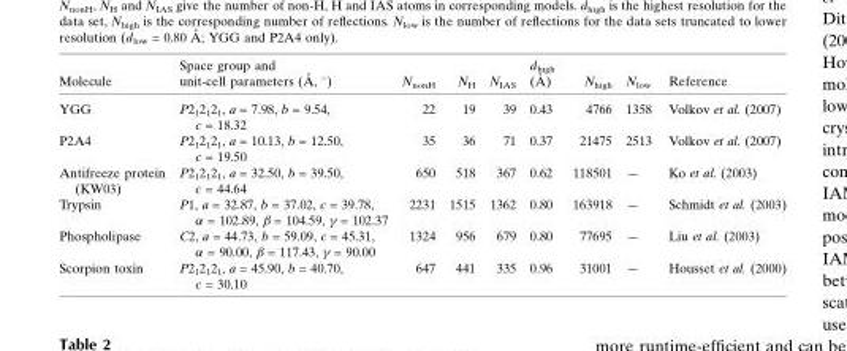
<table><thead><tr><td>Molecule</td><td>Space group and unit-cell parameters (A˚ , �)</td><td>N<sub>nonH</sub></td><td>N<sub>H</sub></td><td>N<sub>IAS</sub></td><td>dhigh (A˚ )</td><td>N<sub>high</sub></td><td>N<sub>low</sub></td><td>Reference</td></tr></thead><tbody><tr><td>YGG</td><td>P2<sub>1</sub>2<sub>1</sub>2<sub>1</sub>, a = 7.98, b = 9.54, c = 18.32</td><td>22</td><td>19</td><td>39</td><td>0.43</td><td>4766</td><td>1358</td><td>Volkov et al. (2007)</td></tr><tr><td>P2A4</td><td>P2<sub>1</sub>2<sub>1</sub>2<sub>1</sub>, a = 10.13, b = 12.50, c = 19.50</td><td>35</td><td>36</td><td>71</td><td>0.37</td><td>21475</td><td>2513</td><td>Volkov et al. (2007)</td></tr><tr><td>Antifreeze protein (KW03)</td><td>P2<sub>1</sub>2<sub>1</sub>2<sub>1</sub>, a = 32.50, b = 39.50, c = 44.64</td><td>650</td><td>518</td><td>367</td><td>0.62</td><td>118501</td><td>—</td><td>Ko et al. (2003)</td></tr><tr><td>Trypsin</td><td>P1, a = 32.87, b = 37.02, c = 39.78, α = 102.89, β = 104.59, γ = 102.37</td><td>2231</td><td>1515</td><td>1362</td><td>0.80</td><td>163918</td><td>—</td><td>Schmidt et al. (2003)</td></tr><tr><td>Phospholipase</td><td>C2, a = 44.73, b = 59.09, c = 45.31, α = 90.00, β = 117.43, γ = 90.00</td><td>1324</td><td>956</td><td>679</td><td>0.80</td><td>77695</td><td>—</td><td>Liu et al. (2003)</td></tr><tr><td>Scorpion toxin</td><td>P2<sub>1</sub>2<sub>1</sub>2<sub>1</sub>, a = 45.90, b = 40.70, c = 30.10</td><td>647</td><td>441</td><td>335</td><td>0.96</td><td>31001</td><td>—</td><td>Housset et al. (2000)</td></tr></tbody></table>